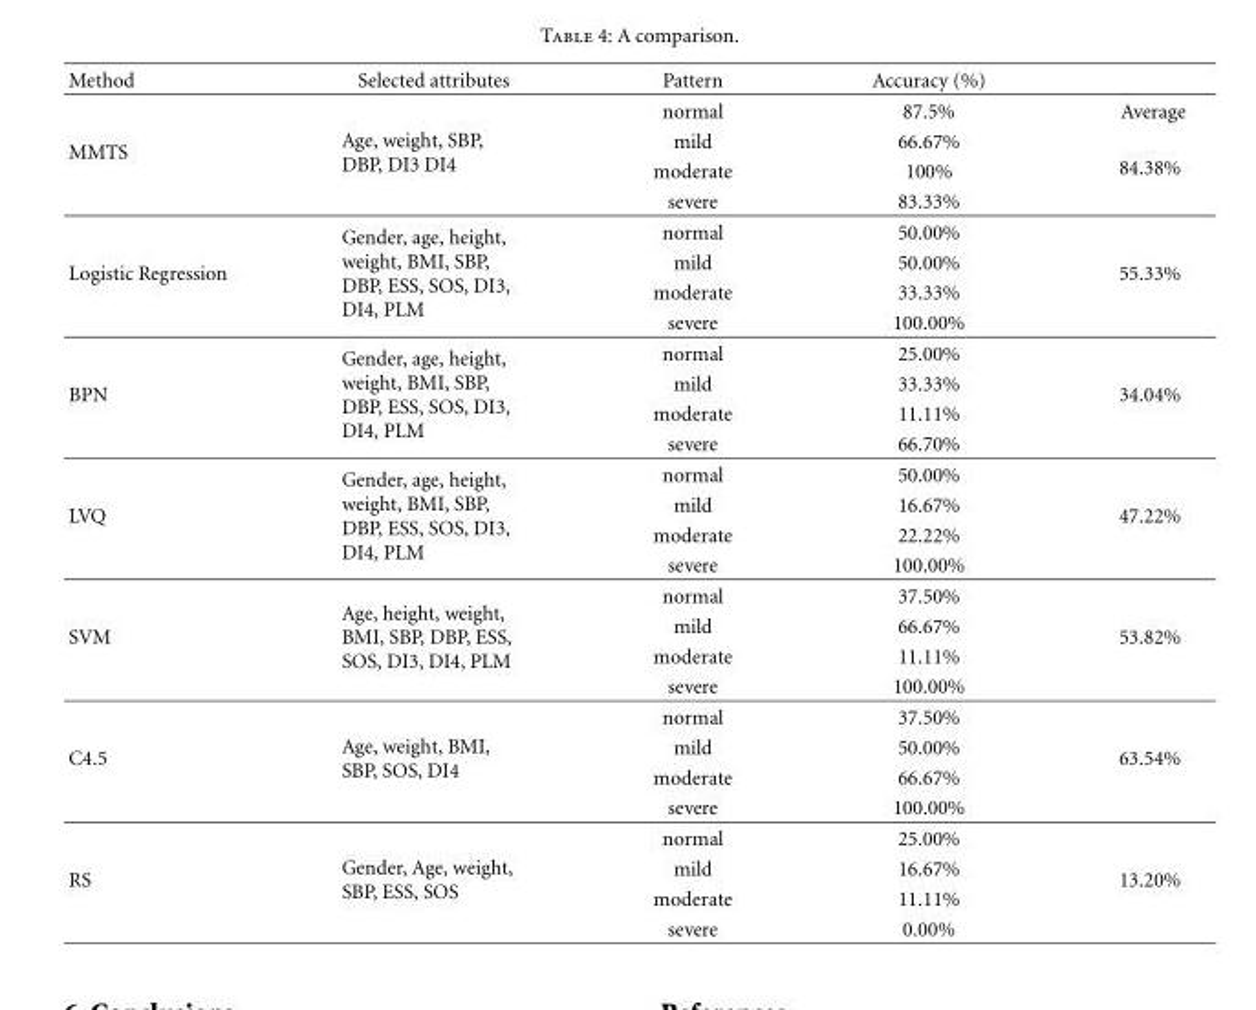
<table><thead><tr><td>Method</td><td>Selected attributes</td><td>Pattern</td><td>Accuracy (%)</td><td></td></tr></thead><tbody><tr><td rowspan="4">MMTS</td><td rowspan="4">Age, weight, SBP, DBP, DI3 DI4</td><td>normal</td><td>87.5%</td><td>Average</td></tr><tr><td>mild</td><td>66.67%</td><td rowspan="3">84.38%</td></tr><tr><td>moderate</td><td>100%</td></tr><tr><td>severe</td><td>83.33%</td></tr><tr><td rowspan="4">Logistic Regression</td><td rowspan="4">Gender, age, height, weight, BMI, SBP, DBP, ESS, SOS, DI3, DI4, PLM</td><td>normal</td><td>50.00%</td><td rowspan="4">55.33%</td></tr><tr><td>mild</td><td>50.00%</td></tr><tr><td>moderate</td><td>33.33%</td></tr><tr><td>severe</td><td>100.00%</td></tr><tr><td rowspan="4">BPN</td><td rowspan="4">Gender, age, height, weight, BMI, SBP, DBP, ESS, SOS, DI3, DI4, PLM</td><td>normal</td><td>25.00%</td><td rowspan="4">34.04%</td></tr><tr><td>mild</td><td>33.33%</td></tr><tr><td>moderate</td><td>11.11%</td></tr><tr><td>severe</td><td>66.70%</td></tr><tr><td rowspan="4">LVQ</td><td rowspan="4">Gender, age, height, weight, BMI, SBP, DBP, ESS, SOS, DI3, DI4, PLM</td><td>normal</td><td>50.00%</td><td rowspan="4">47.22%</td></tr><tr><td>mild</td><td>16.67%</td></tr><tr><td>moderate</td><td>22.22%</td></tr><tr><td>severe</td><td>100.00%</td></tr><tr><td rowspan="4">SVM</td><td rowspan="4">Age, height, weight, BMI, SBP, DBP, ESS, SOS, DI3, DI4, PLM</td><td>normal</td><td>37.50%</td><td rowspan="4">53.82%</td></tr><tr><td>mild</td><td>66.67%</td></tr><tr><td>moderate</td><td>11.11%</td></tr><tr><td>severe</td><td>100.00%</td></tr><tr><td rowspan="4">C4.5</td><td rowspan="4">Age, weight, BMI, SBP, SOS, DI4</td><td>normal</td><td>37.50%</td><td rowspan="4">63.54%</td></tr><tr><td>mild</td><td>50.00%</td></tr><tr><td>moderate</td><td>66.67%</td></tr><tr><td>severe</td><td>100.00%</td></tr><tr><td rowspan="4">RS</td><td rowspan="4">Gender, Age, weight, SBP, ESS, SOS</td><td>normal</td><td>25.00%</td><td rowspan="4">13.20%</td></tr><tr><td>mild</td><td>16.67%</td></tr><tr><td>moderate</td><td>11.11%</td></tr><tr><td>severe</td><td>0.00%</td></tr></tbody></table>